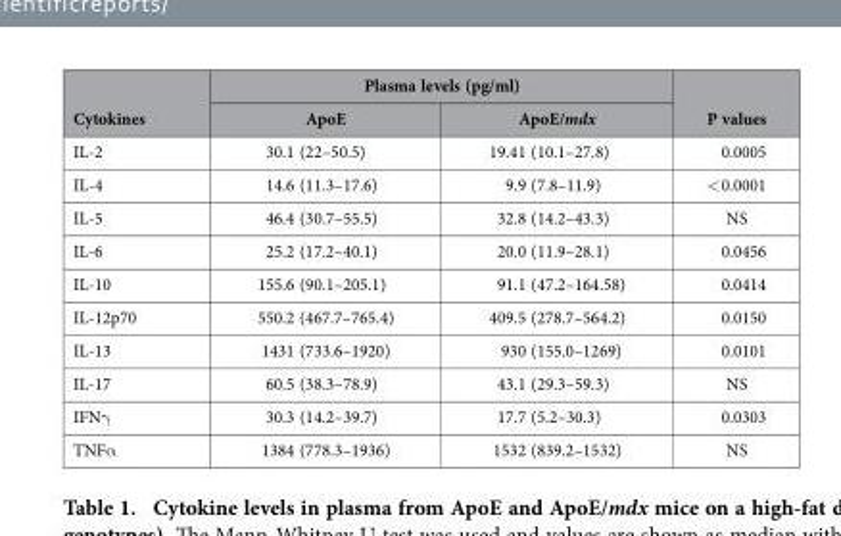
<table><thead><tr><td rowspan="2">Cytokines</td><td colspan="2">Plasma levels (pg/ml)</td><td rowspan="2">P values</td></tr><tr><td>ApoE</td><td>ApoE/mdx</td></tr></thead><tbody><tr><td>IL-2</td><td>30.1 (22–50.5)</td><td>19.41 (10.1–27.8)</td><td>0.0005</td></tr><tr><td>IL-4</td><td>14.6 (11.3–17.6)</td><td>9.9 (7.8–11.9)</td><td>&lt; 0.0001</td></tr><tr><td>IL-5</td><td>46.4 (30.7–55.5)</td><td>32.8 (14.2–43.3)</td><td>NS</td></tr><tr><td>IL-6</td><td>25.2 (17.2–40.1)</td><td>20.0 (11.9–28.1)</td><td>0.0456</td></tr><tr><td>IL-10</td><td>155.6 (90.1–205.1)</td><td>91.1 (47.2–164.58)</td><td>0.0414</td></tr><tr><td>IL-12p70</td><td>550.2 (467.7–765.4)</td><td>409.5 (278.7–564.2)</td><td>0.0150</td></tr><tr><td>IL-13</td><td>1431 (733.6–1920)</td><td>930 (155.0–1269)</td><td>0.0101</td></tr><tr><td>IL-17</td><td>60.5 (38.3–78.9)</td><td>43.1 (29.3–59.3)</td><td>NS</td></tr><tr><td>IFNγ</td><td>30.3 (14.2–39.7)</td><td>17.7 (5.2–30.3)</td><td>0.0303</td></tr><tr><td>TNFα</td><td>1384 (778.3–1936)</td><td>1532 (839.2–1532)</td><td>NS</td></tr></tbody></table>